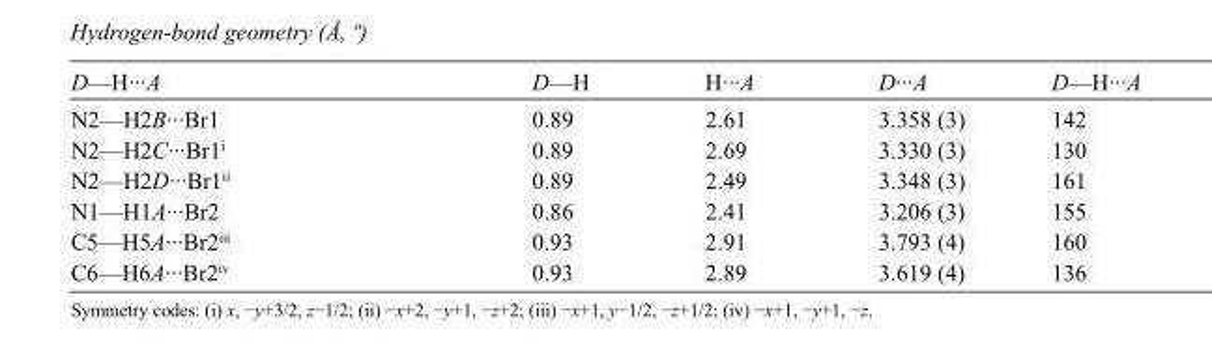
<table><tbody><tr><td>D—H···A</td><td>D—H</td><td>H···A</td><td>D···A</td><td>D—H···A</td></tr><tr><td>N2—H2B···Br1</td><td>0.89</td><td>2.61</td><td>3.358 (3)</td><td>142</td></tr><tr><td>N2—H2C···Br1<sup>i</sup></td><td>0.89</td><td>2.69</td><td>3.330 (3)</td><td>130</td></tr><tr><td>N2—H2D···Br1<sup>ii</sup></td><td>0.89</td><td>2.49</td><td>3.348 (3)</td><td>161</td></tr><tr><td>N1—H1A···Br2</td><td>0.86</td><td>2.41</td><td>3.206 (3)</td><td>155</td></tr><tr><td>C5—H5A···Br2<sup>iii</sup></td><td>0.93</td><td>2.91</td><td>3.793 (4)</td><td>160</td></tr><tr><td>C6—H6A···Br2<sup>iv</sup></td><td>0.93</td><td>2.89</td><td>3.619 (4)</td><td>136</td></tr></tbody></table>